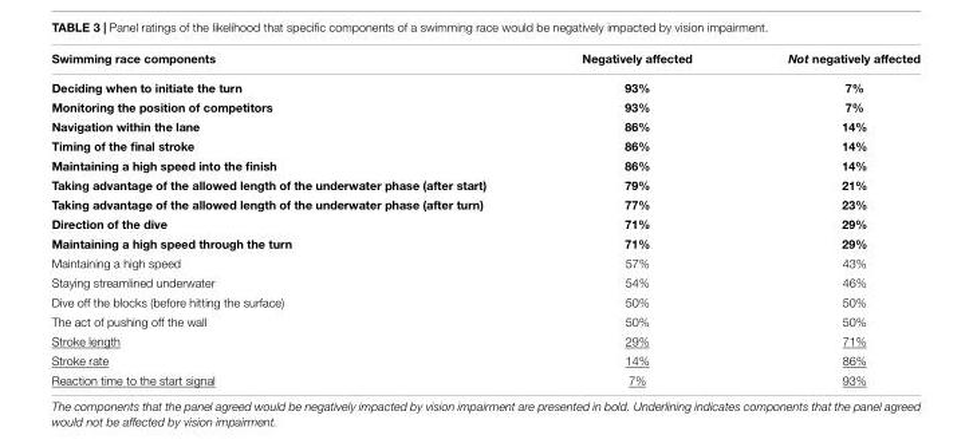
<table><thead><tr><td>Swimming race components</td><td>Negatively affected</td><td>Not negatively affected</td></tr></thead><tbody><tr><td>Deciding when to initiate the turn</td><td>93%</td><td>7%</td></tr><tr><td>Monitoring the position of competitors</td><td>93%</td><td>7%</td></tr><tr><td>Navigation within the lane</td><td>86%</td><td>14%</td></tr><tr><td>Timing of the final stroke</td><td>86%</td><td>14%</td></tr><tr><td>Maintaining a high speed into the finish</td><td>86%</td><td>14%</td></tr><tr><td>Taking advantage of the allowed length of the underwater phase (after start)</td><td>79%</td><td>21%</td></tr><tr><td>Taking advantage of the allowed length of the underwater phase (after turn)</td><td>77%</td><td>23%</td></tr><tr><td>Direction of the dive</td><td>71%</td><td>29%</td></tr><tr><td>Maintaining a high speed through the turn</td><td>71%</td><td>29%</td></tr><tr><td>Maintaining a high speed</td><td>57%</td><td>43%</td></tr><tr><td>Staying streamlined underwater</td><td>54%</td><td>46%</td></tr><tr><td>Dive off the blocks (before hitting the surface)</td><td>50%</td><td>50%</td></tr><tr><td>The act of pushing off the wall</td><td>50%</td><td>50%</td></tr><tr><td>Stroke length</td><td>29%</td><td>71%</td></tr><tr><td>Stroke rate</td><td>14%</td><td>86%</td></tr><tr><td>Reaction time to the start signal</td><td>7%</td><td>93%</td></tr></tbody></table>